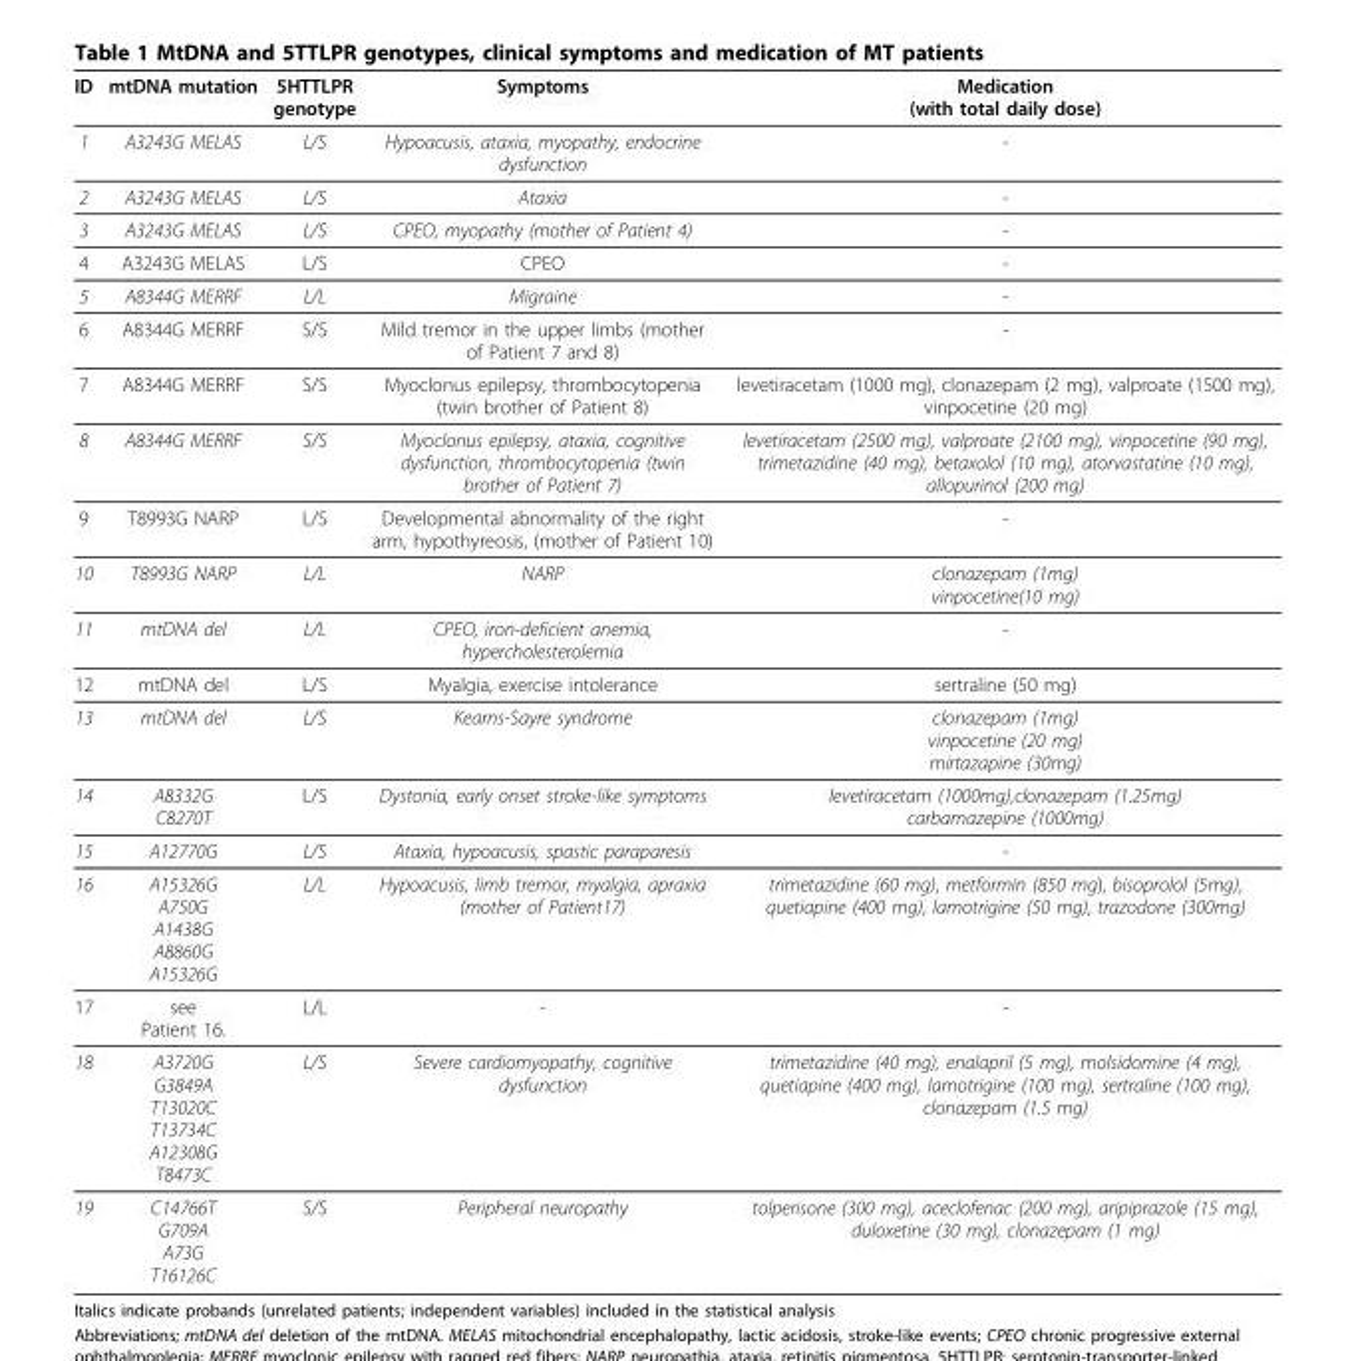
<table><thead><tr><td>ID</td><td>mtDNA mutation</td><td>5HTTLPR genotype</td><td>Symptoms</td><td>Medication (with total daily dose)</td></tr></thead><tbody><tr><td>1</td><td>A3243G MELAS</td><td>L/S</td><td>Hypoacusis, ataxia, myopathy, endocrine dysfunction</td><td>-</td></tr><tr><td>2</td><td>A3243G MELAS</td><td>L/S</td><td>Ataxia</td><td>-</td></tr><tr><td>3</td><td>A3243G MELAS</td><td>L/S</td><td>CPEO, myopathy (mother of Patient 4)</td><td>-</td></tr><tr><td>4</td><td>A3243G MELAS</td><td>L/S</td><td>CPEO</td><td>-</td></tr><tr><td>5</td><td>A8344G MERRF</td><td>L/L</td><td>Migraine</td><td>-</td></tr><tr><td>6</td><td>A8344G MERRF</td><td>S/S</td><td>Mild tremor in the upper limbs (mother of Patient 7 and 8)</td><td>-</td></tr><tr><td>7</td><td>A8344G MERRF</td><td>S/S</td><td>Myoclonus epilepsy, thrombocytopenia (twin brother of Patient 8)</td><td>levetiracetam (1000 mg), clonazepam (2 mg), valproate (1500 mg), vinpocetine (20 mg)</td></tr><tr><td>8</td><td>A8344G MERRF</td><td>S/S</td><td>Myoclonus epilepsy, ataxia, cognitive dysfunction, thrombocytopenia (twin brother of Patient 7)</td><td>levetiracetam (2500 mg), valproate (2100 mg), vinpocetine (90 mg), trimetazidine (40 mg), betaxolol (10 mg), atorvastatine (10 mg), allopurinol (200 mg)</td></tr><tr><td>9</td><td>T8993G NARP</td><td>L/S</td><td>Developmental abnormality of the right arm, hypothyreosis, (mother of Patient 10)</td><td>-</td></tr><tr><td>10</td><td>T8993G NARP</td><td>L/L</td><td>NARP</td><td>clonazepam (1mg) vinpocetine(10 mg)</td></tr><tr><td>11</td><td>mtDNA del</td><td>L/L</td><td>CPEO, iron-deficient anemia, hypercholesterolemia</td><td>-</td></tr><tr><td>12</td><td>mtDNA del</td><td>L/S</td><td>Myalgia, exercise intolerance</td><td>sertraline (50 mg)</td></tr><tr><td>13</td><td>mtDNA del</td><td>L/S</td><td>Kearns-Sayre syndrome</td><td>clonazepam (1mg) vinpocetine (20 mg) mirtazapine (30mg)</td></tr><tr><td>14</td><td>A8332G C8270T</td><td>L/S</td><td>Dystonia, early onset stroke-like symptoms</td><td>levetiracetam (1000mg),clonazepam (1.25mg) carbamazepine (1000mg)</td></tr><tr><td>15</td><td>A12770G</td><td>L/S</td><td>Ataxia, hypoacusis, spastic paraparesis</td><td>-</td></tr><tr><td>16</td><td>A15326G A750G A1438G A8860G A15326G</td><td>L/L</td><td>Hypoacusis, limb tremor, myalgia, apraxia (mother of Patient17)</td><td>trimetazidine (60 mg), metformin (850 mg), bisoprolol (5mg), quetiapine (400 mg), lamotrigine (50 mg), trazodone (300mg)</td></tr><tr><td>17</td><td>see Patient 16.</td><td>L/L</td><td>-</td><td>-</td></tr><tr><td>18</td><td>A3720G G3849A T13020C T13734C A12308G T8473C</td><td>L/S</td><td>Severe cardiomyopathy, cognitive dysfunction</td><td>trimetazidine (40 mg), enalapril (5 mg), molsidomine (4 mg), quetiapine (400 mg), lamotrigine (100 mg), sertraline (100 mg), clonazepam (1.5 mg)</td></tr><tr><td>19</td><td>C14766T G709A A73G T16126C</td><td>S/S</td><td>Peripheral neuropathy</td><td>tolperisone (300 mg), aceclofenac (200 mg), aripiprazole (15 mg), duloxetine (30 mg), clonazepam (1 mg)</td></tr></tbody></table>